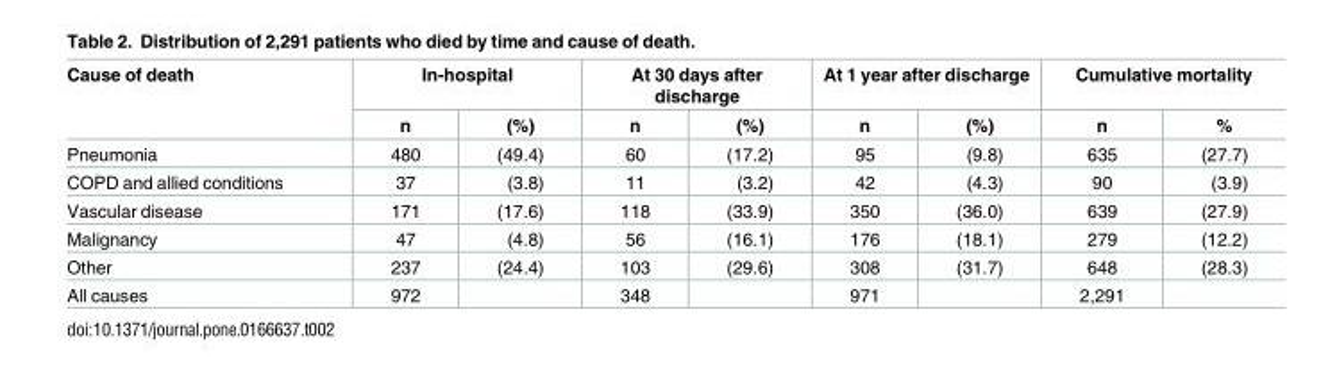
<table><thead><tr><td rowspan="2">Cause of death</td><td colspan="2">In-hospital</td><td colspan="2">At 30 days after discharge</td><td colspan="2">At 1 year after discharge</td><td colspan="2">Cumulative mortality</td></tr><tr><td>n</td><td>(%)</td><td>n</td><td>(%)</td><td>n</td><td>(%)</td><td>n</td><td>%</td></tr></thead><tbody><tr><td>Pneumonia</td><td>480</td><td>(49.4)</td><td>60</td><td>(17.2)</td><td>95</td><td>(9.8)</td><td>635</td><td>(27.7)</td></tr><tr><td>COPD and allied conditions</td><td>37</td><td>(3.8)</td><td>11</td><td>(3.2)</td><td>42</td><td>(4.3)</td><td>90</td><td>(3.9)</td></tr><tr><td>Vascular disease</td><td>171</td><td>(17.6)</td><td>118</td><td>(33.9)</td><td>350</td><td>(36.0)</td><td>639</td><td>(27.9)</td></tr><tr><td>Malignancy</td><td>47</td><td>(4.8)</td><td>56</td><td>(16.1)</td><td>176</td><td>(18.1)</td><td>279</td><td>(12.2)</td></tr><tr><td>Other</td><td>237</td><td>(24.4)</td><td>103</td><td>(29.6)</td><td>308</td><td>(31.7)</td><td>648</td><td>(28.3)</td></tr><tr><td>All causes</td><td>972</td><td></td><td>348</td><td></td><td>971</td><td></td><td>2,291</td><td></td></tr></tbody></table>